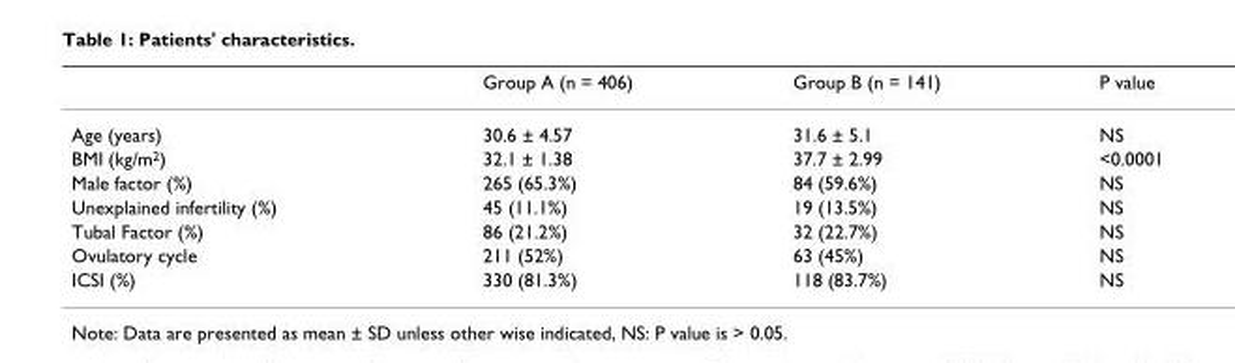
<table><thead><tr><td></td><td>Group A (n = 406)</td><td>Group B (n = 141)</td><td>P value</td></tr></thead><tbody><tr><td>Age (years)</td><td>30.6 ± 4.57</td><td>31.6 ± 5.1</td><td>NS</td></tr><tr><td>BMI (kg/m<sup>2</sup>)</td><td>32.1 ± 1.38</td><td>37.7 ± 2.99</td><td>&lt;0.0001</td></tr><tr><td>Male factor (%)</td><td>265 (65.3%)</td><td>84 (59.6%)</td><td>NS</td></tr><tr><td>Unexplained infertility (%)</td><td>45 (11.1%)</td><td>19 (13.5%)</td><td>NS</td></tr><tr><td>Tubal Factor (%)</td><td>86 (21.2%)</td><td>32 (22.7%)</td><td>NS</td></tr><tr><td>Ovulatory cycle</td><td>211 (52%)</td><td>63 (45%)</td><td>NS</td></tr><tr><td>ICSI (%)</td><td>330 (81.3%)</td><td>118 (83.7%)</td><td>NS</td></tr></tbody></table>